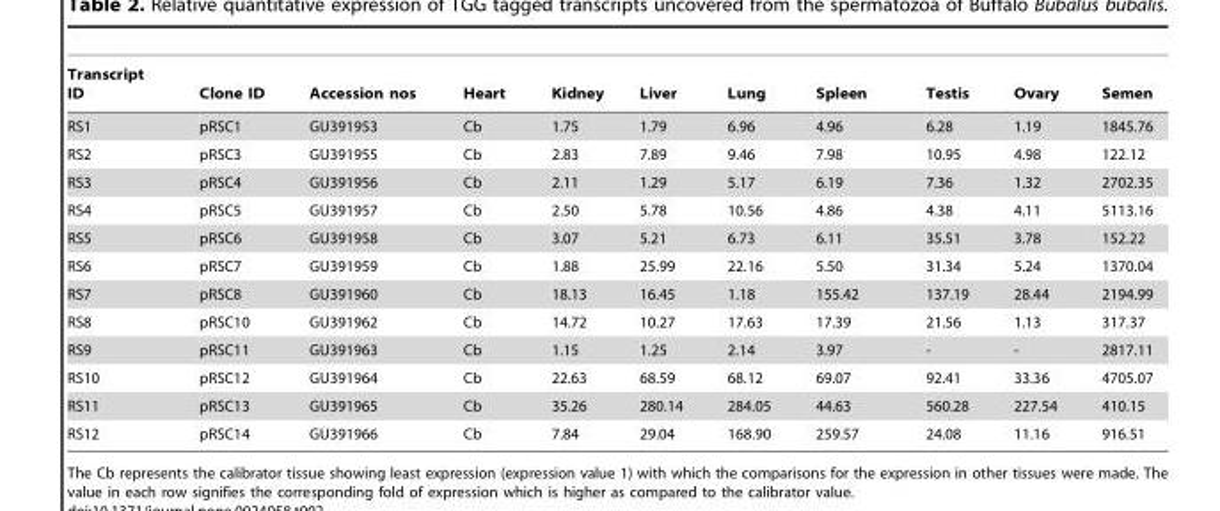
<table><thead><tr><td>Transcript ID</td><td>Clone ID</td><td>Accession nos</td><td>Heart</td><td>Kidney</td><td>Liver</td><td>Lung</td><td>Spleen</td><td>Testis</td><td>Ovary</td><td>Semen</td></tr></thead><tbody><tr><td>RS1</td><td>pRSC1</td><td>GU391953</td><td>Cb</td><td>1.75</td><td>1.79</td><td>6.96</td><td>4.96</td><td>6.28</td><td>1.19</td><td>1845.76</td></tr><tr><td>RS2</td><td>pRSC3</td><td>GU391955</td><td>Cb</td><td>2.83</td><td>7.89</td><td>9.46</td><td>7.98</td><td>10.95</td><td>4.98</td><td>122.12</td></tr><tr><td>RS3</td><td>pRSC4</td><td>GU391956</td><td>Cb</td><td>2.11</td><td>1.29</td><td>5.17</td><td>6.19</td><td>7.36</td><td>1.32</td><td>2702.35</td></tr><tr><td>RS4</td><td>pRSC5</td><td>GU391957</td><td>Cb</td><td>2.50</td><td>5.78</td><td>10.56</td><td>4.86</td><td>4.38</td><td>4.11</td><td>5113.16</td></tr><tr><td>RS5</td><td>pRSC6</td><td>GU391958</td><td>Cb</td><td>3.07</td><td>5.21</td><td>6.73</td><td>6.11</td><td>35.51</td><td>3.78</td><td>152.22</td></tr><tr><td>RS6</td><td>pRSC7</td><td>GU391959</td><td>Cb</td><td>1.88</td><td>25.99</td><td>22.16</td><td>5.50</td><td>31.34</td><td>5.24</td><td>1370.04</td></tr><tr><td>RS7</td><td>pRSC8</td><td>GU391960</td><td>Cb</td><td>18.13</td><td>16.45</td><td>1.18</td><td>155.42</td><td>137.19</td><td>28.44</td><td>2194.99</td></tr><tr><td>RS8</td><td>pRSC10</td><td>GU391962</td><td>Cb</td><td>14.72</td><td>10.27</td><td>17.63</td><td>17.39</td><td>21.56</td><td>1.13</td><td>317.37</td></tr><tr><td>RS9</td><td>pRSC11</td><td>GU391963</td><td>Cb</td><td>1.15</td><td>1.25</td><td>2.14</td><td>3.97</td><td>-</td><td>-</td><td>2817.11</td></tr><tr><td>RS10</td><td>pRSC12</td><td>GU391964</td><td>Cb</td><td>22.63</td><td>68.59</td><td>68.12</td><td>69.07</td><td>92.41</td><td>33.36</td><td>4705.07</td></tr><tr><td>RS11</td><td>pRSC13</td><td>GU391965</td><td>Cb</td><td>35.26</td><td>280.14</td><td>284.05</td><td>44.63</td><td>560.28</td><td>227.54</td><td>410.15</td></tr><tr><td>RS12</td><td>pRSC14</td><td>GU391966</td><td>Cb</td><td>7.84</td><td>29.04</td><td>168.90</td><td>259.57</td><td>24.08</td><td>11.16</td><td>916.51</td></tr></tbody></table>